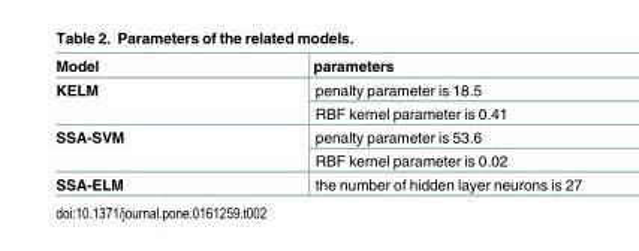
<table><thead><tr><td>Model</td><td>parameters</td></tr></thead><tbody><tr><td rowspan="2">KELM</td><td>penalty parameter is 18.5</td></tr><tr><td>RBF kernel parameter is 0.41</td></tr><tr><td rowspan="2">SSA-SVM</td><td>penalty parameter is 53.6</td></tr><tr><td>RBF kernel parameter is 0.02</td></tr><tr><td>SSA-ELM</td><td>the number of hidden layer neurons is 27</td></tr></tbody></table>